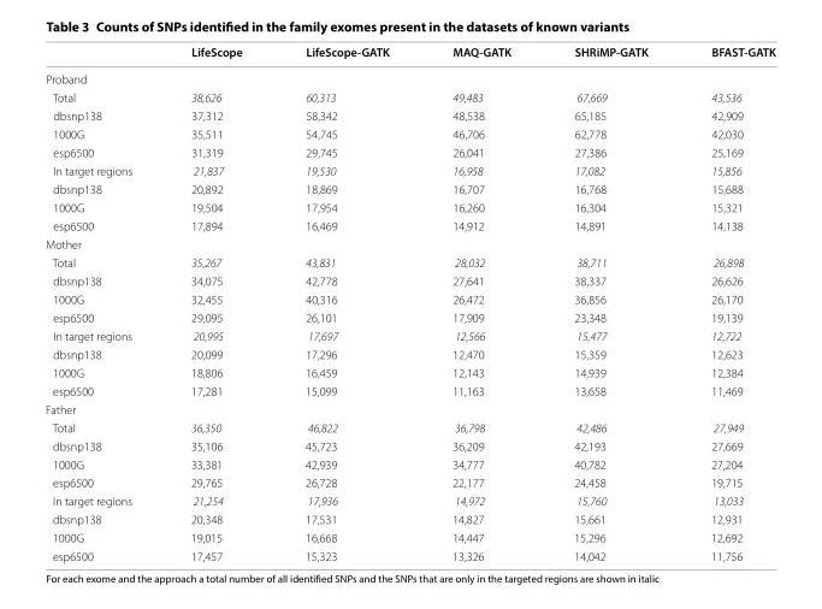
<table><thead><tr><td></td><td>LifeScope</td><td>LifeScope-GATK</td><td>MAQ-GATK</td><td>SHRiMP-GATK</td><td>BFAST-GATK</td></tr></thead><tbody><tr><td colspan="6">Proband</td></tr><tr><td>Total</td><td>38,626</td><td>60,313</td><td>49,483</td><td>67,669</td><td>43,536</td></tr><tr><td>dbsnp138</td><td>37,312</td><td>58,342</td><td>48,538</td><td>65,185</td><td>42,909</td></tr><tr><td>1000G</td><td>35,511</td><td>54,745</td><td>46,706</td><td>62,778</td><td>42,030</td></tr><tr><td>esp6500</td><td>31,319</td><td>29,745</td><td>26,041</td><td>27,386</td><td>25,169</td></tr><tr><td>In target regions</td><td>21,837</td><td>19,530</td><td>16,958</td><td>17,082</td><td>15,856</td></tr><tr><td>dbsnp138</td><td>20,892</td><td>18,869</td><td>16,707</td><td>16,768</td><td>15,688</td></tr><tr><td>1000G</td><td>19,504</td><td>17,954</td><td>16,260</td><td>16,304</td><td>15,321</td></tr><tr><td>esp6500</td><td>17,894</td><td>16,469</td><td>14,912</td><td>14,891</td><td>14,138</td></tr><tr><td colspan="6">Mother</td></tr><tr><td>Total</td><td>35,267</td><td>43,831</td><td>28,032</td><td>38,711</td><td>26,898</td></tr><tr><td>dbsnp138</td><td>34,075</td><td>42,778</td><td>27,641</td><td>38,337</td><td>26,626</td></tr><tr><td>1000G</td><td>32,455</td><td>40,316</td><td>26,472</td><td>36,856</td><td>26,170</td></tr><tr><td>esp6500</td><td>29,095</td><td>26,101</td><td>17,909</td><td>23,348</td><td>19,139</td></tr><tr><td>In target regions</td><td>20,995</td><td>17,697</td><td>12,566</td><td>15,477</td><td>12,722</td></tr><tr><td>dbsnp138</td><td>20,099</td><td>17,296</td><td>12,470</td><td>15,359</td><td>12,623</td></tr><tr><td>1000G</td><td>18,806</td><td>16,459</td><td>12,143</td><td>14,939</td><td>12,384</td></tr><tr><td>esp6500</td><td>17,281</td><td>15,099</td><td>11,163</td><td>13,658</td><td>11,469</td></tr><tr><td colspan="6">Father</td></tr><tr><td>Total</td><td>36,350</td><td>46,822</td><td>36,798</td><td>42,486</td><td>27,949</td></tr><tr><td>dbsnp138</td><td>35,106</td><td>45,723</td><td>36,209</td><td>42,193</td><td>27,669</td></tr><tr><td>1000G</td><td>33,381</td><td>42,939</td><td>34,777</td><td>40,782</td><td>27,204</td></tr><tr><td>esp6500</td><td>29,765</td><td>26,728</td><td>22,177</td><td>24,458</td><td>19,715</td></tr><tr><td>In target regions</td><td>21,254</td><td>17,936</td><td>14,972</td><td>15,760</td><td>13,033</td></tr><tr><td>dbsnp138</td><td>20,348</td><td>17,531</td><td>14,827</td><td>15,661</td><td>12,931</td></tr><tr><td>1000G</td><td>19,015</td><td>16,668</td><td>14,447</td><td>15,296</td><td>12,692</td></tr><tr><td>esp6500</td><td>17,457</td><td>15,323</td><td>13,326</td><td>14,042</td><td>11,756</td></tr></tbody></table>